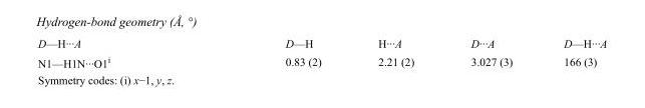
<table><tbody><tr><td>D—H···A</td><td>D—H</td><td>H···A</td><td>D···A</td><td>D—H···A</td></tr><tr><td>N1—H1N···O1<sup>i</sup></td><td>0.83 (2)</td><td>2.21 (2)</td><td>3.027 (3)</td><td>166 (3)</td></tr></tbody></table>